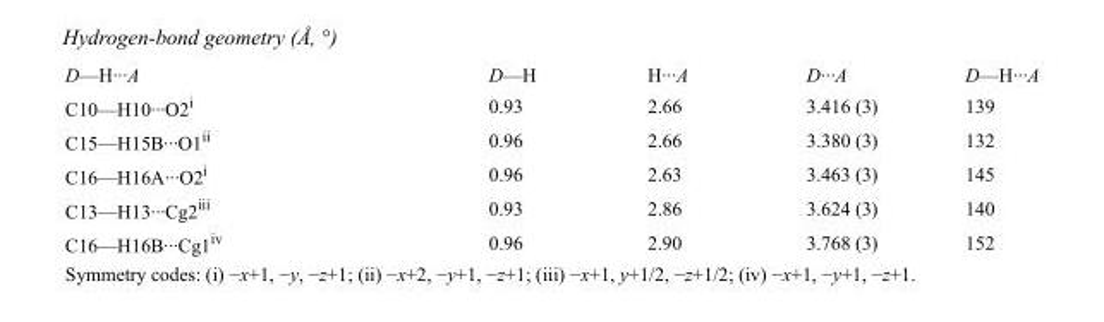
<table><tbody><tr><td>D—H···A</td><td>D—H</td><td>H···A</td><td>D···A</td><td>D—H···A</td></tr><tr><td>C10—H10···O2<sup>i</sup></td><td>0.93</td><td>2.66</td><td>3.416 (3)</td><td>139</td></tr><tr><td>C15—H15B···O1<sup>ii</sup></td><td>0.96</td><td>2.66</td><td>3.380 (3)</td><td>132</td></tr><tr><td>C16—H16A···O2<sup>i</sup></td><td>0.96</td><td>2.63</td><td>3.463 (3)</td><td>145</td></tr><tr><td>C13—H13···Cg2<sup>iii</sup></td><td>0.93</td><td>2.86</td><td>3.624 (3)</td><td>140</td></tr><tr><td>C16—H16B···Cg1<sup>iv</sup></td><td>0.96</td><td>2.90</td><td>3.768 (3)</td><td>152</td></tr></tbody></table>